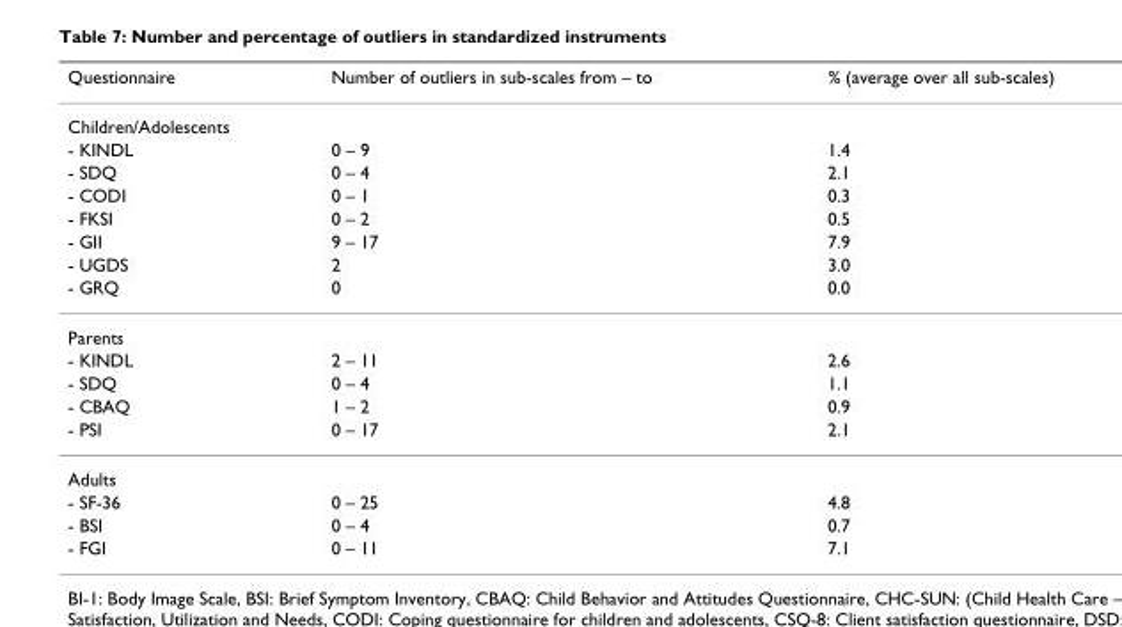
<table><thead><tr><td>Questionnaire</td><td>Number of outliers in sub-scales from – to</td><td>% (average over all sub-scales)</td></tr></thead><tbody><tr><td colspan="3">Children/Adolescents</td></tr><tr><td>- KINDL</td><td>0 – 9</td><td>1.4</td></tr><tr><td>- SDQ</td><td>0 – 4</td><td>2.1</td></tr><tr><td>- CODI</td><td>0 – 1</td><td>0.3</td></tr><tr><td>- FKSI</td><td>0 – 2</td><td>0.5</td></tr><tr><td>- GII</td><td>9 – 17</td><td>7.9</td></tr><tr><td>- UGDS</td><td>2</td><td>3.0</td></tr><tr><td>- GRQ</td><td>0</td><td>0.0</td></tr><tr><td colspan="3">Parents</td></tr><tr><td>- KINDL</td><td>2 – 11</td><td>2.6</td></tr><tr><td>- SDQ</td><td>0 – 4</td><td>1.1</td></tr><tr><td>- CBAQ</td><td>1 – 2</td><td>0.9</td></tr><tr><td>- PSI</td><td>0 – 17</td><td>2.1</td></tr><tr><td colspan="3">Adults</td></tr><tr><td>- SF-36</td><td>0 – 25</td><td>4.8</td></tr><tr><td>- BSI</td><td>0 – 4</td><td>0.7</td></tr><tr><td>- FGI</td><td>0 – 11</td><td>7.1</td></tr></tbody></table>